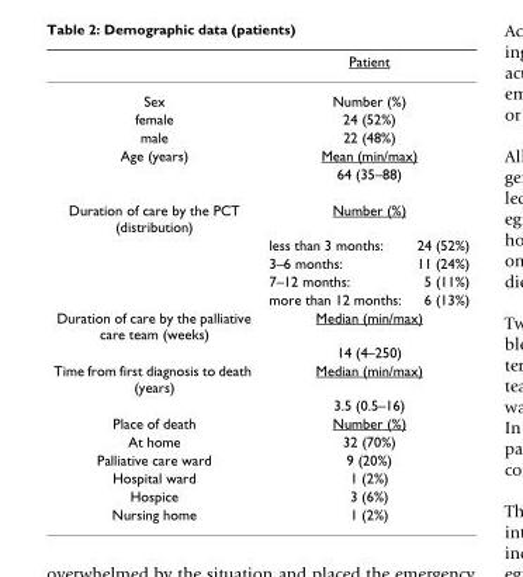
<table><thead><tr><td></td><td colspan="2">Patient</td></tr></thead><tbody><tr><td>Sex</td><td colspan="2">Number (%)</td></tr><tr><td>female</td><td colspan="2">24 (52%)</td></tr><tr><td>male</td><td colspan="2">22 (48%)</td></tr><tr><td rowspan="2">Age (years)</td><td colspan="2">Mean (min/max)</td></tr><tr><td colspan="2">64 (35–88)</td></tr><tr><td rowspan="5">Duration of care by the PCT (distribution)</td><td colspan="2">Number (%)</td></tr><tr><td>less than 3 months:</td><td>24 (52%)</td></tr><tr><td>3–6 months:</td><td>11 (24%)</td></tr><tr><td>7–12 months:</td><td>5 (11%)</td></tr><tr><td>more than 12 months:</td><td>6 (13%)</td></tr><tr><td rowspan="2">Duration of care by the palliative care team (weeks)</td><td colspan="2">Median (min/max)</td></tr><tr><td colspan="2">14 (4–250)</td></tr><tr><td rowspan="2">Time from first diagnosis to death (years)</td><td colspan="2">Median (min/max)</td></tr><tr><td colspan="2">3.5 (0.5–16)</td></tr><tr><td>Place of death</td><td colspan="2">Number (%)</td></tr><tr><td>At home</td><td colspan="2">32 (70%)</td></tr><tr><td>Palliative care ward</td><td colspan="2">9 (20%)</td></tr><tr><td>Hospital ward</td><td colspan="2">1 (2%)</td></tr><tr><td>Hospice</td><td colspan="2">3 (6%)</td></tr><tr><td>Nursing home</td><td colspan="2">1 (2%)</td></tr></tbody></table>